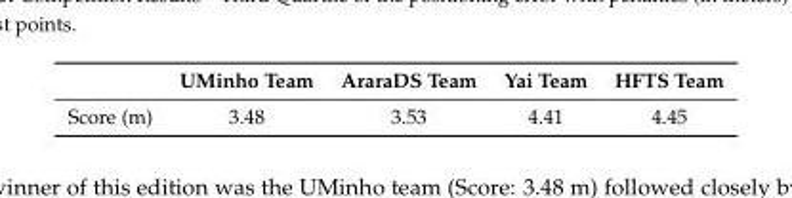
<table><thead><tr><td></td><td>UMinho Team</td><td>AraraDS Team</td><td>Yai Team</td><td>HFTS Team</td></tr></thead><tbody><tr><td>Score (m)</td><td>3.48</td><td>3.53</td><td>4.41</td><td>4.45</td></tr></tbody></table>